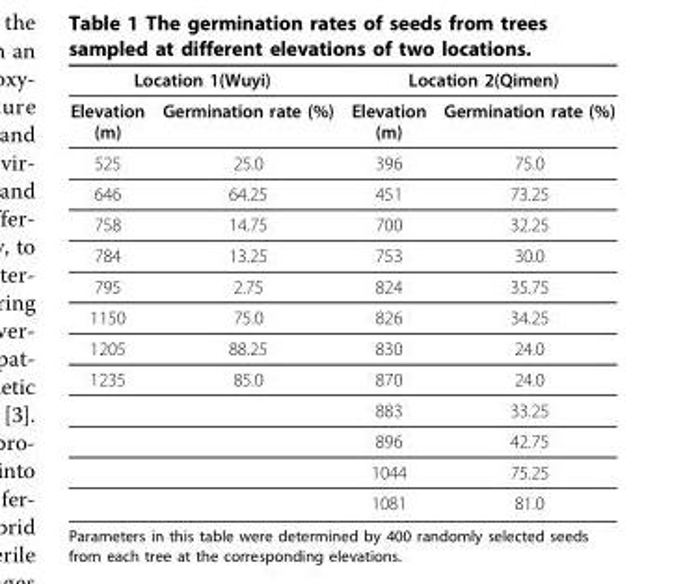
<table><thead><tr><td colspan="2">Location 1(Wuyi)</td><td colspan="2">Location 2(Qimen)</td></tr><tr><td>Elevation (m)</td><td>Germination rate (%)</td><td>Elevation (m)</td><td>Germination rate (%)</td></tr></thead><tbody><tr><td>525</td><td>25.0</td><td>396</td><td>75.0</td></tr><tr><td>646</td><td>64.25</td><td>451</td><td>73.25</td></tr><tr><td>758</td><td>14.75</td><td>700</td><td>32.25</td></tr><tr><td>784</td><td>13.25</td><td>753</td><td>30.0</td></tr><tr><td>795</td><td>2.75</td><td>824</td><td>35.75</td></tr><tr><td>1150</td><td>75.0</td><td>826</td><td>34.25</td></tr><tr><td>1205</td><td>88.25</td><td>830</td><td>24.0</td></tr><tr><td rowspan="5">1235</td><td>85.0</td><td>870</td><td>24.0</td></tr><tr><td></td><td>883</td><td>33.25</td></tr><tr><td></td><td>896</td><td>42.75</td></tr><tr><td></td><td>1044</td><td>75.25</td></tr><tr><td></td><td>1081</td><td>81.0</td></tr></tbody></table>